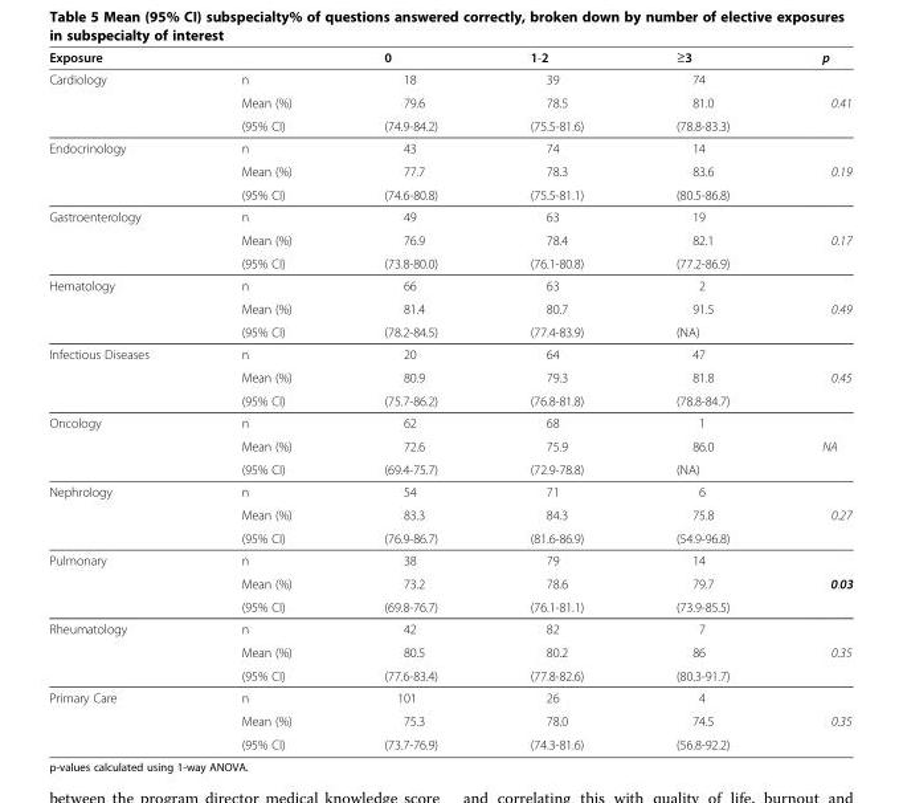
<table><thead><tr><td>Exposure</td><td></td><td>0</td><td>1-2</td><td>≥3</td><td>p</td></tr></thead><tbody><tr><td rowspan="3">Cardiology</td><td>n</td><td>18</td><td>39</td><td>74</td><td></td></tr><tr><td>Mean (%)</td><td>79.6</td><td>78.5</td><td>81.0</td><td>0.41</td></tr><tr><td>(95% CI)</td><td>(74.9-84.2)</td><td>(75.5-81.6)</td><td>(78.8-83.3)</td><td></td></tr><tr><td rowspan="3">Endocrinology</td><td>n</td><td>43</td><td>74</td><td>14</td><td></td></tr><tr><td>Mean (%)</td><td>77.7</td><td>78.3</td><td>83.6</td><td>0.19</td></tr><tr><td>(95% CI)</td><td>(74.6-80.8)</td><td>(75.5-81.1)</td><td>(80.5-86.8)</td><td></td></tr><tr><td rowspan="3">Gastroenterology</td><td>n</td><td>49</td><td>63</td><td>19</td><td></td></tr><tr><td>Mean (%)</td><td>76.9</td><td>78.4</td><td>82.1</td><td>0.17</td></tr><tr><td>(95% CI)</td><td>(73.8-80.0)</td><td>(76.1-80.8)</td><td>(77.2-86.9)</td><td></td></tr><tr><td rowspan="3">Hematology</td><td>n</td><td>66</td><td>63</td><td>2</td><td></td></tr><tr><td>Mean (%)</td><td>81.4</td><td>80.7</td><td>91.5</td><td>0.49</td></tr><tr><td>(95% CI)</td><td>(78.2-84.5)</td><td>(77.4-83.9)</td><td>(NA)</td><td></td></tr><tr><td rowspan="3">Infectious Diseases</td><td>n</td><td>20</td><td>64</td><td>47</td><td></td></tr><tr><td>Mean (%)</td><td>80.9</td><td>79.3</td><td>81.8</td><td>0.45</td></tr><tr><td>(95% CI)</td><td>(75.7-86.2)</td><td>(76.8-81.8)</td><td>(78.8-84.7)</td><td></td></tr><tr><td rowspan="3">Oncology</td><td>n</td><td>62</td><td>68</td><td>1</td><td></td></tr><tr><td>Mean (%)</td><td>72.6</td><td>75.9</td><td>86.0</td><td>NA</td></tr><tr><td>(95% CI)</td><td>(69.4-75.7)</td><td>(72.9-78.8)</td><td>(NA)</td><td></td></tr><tr><td rowspan="3">Nephrology</td><td>n</td><td>54</td><td>71</td><td>6</td><td></td></tr><tr><td>Mean (%)</td><td>83.3</td><td>84.3</td><td>75.8</td><td>0.27</td></tr><tr><td>(95% CI)</td><td>(76.9-86.7)</td><td>(81.6-86.9)</td><td>(54.9-96.8)</td><td></td></tr><tr><td rowspan="3">Pulmonary</td><td>n</td><td>38</td><td>79</td><td>14</td><td></td></tr><tr><td>Mean (%)</td><td>73.2</td><td>78.6</td><td>79.7</td><td>0.03</td></tr><tr><td>(95% CI)</td><td>(69.8-76.7)</td><td>(76.1-81.1)</td><td>(73.9-85.5)</td><td></td></tr><tr><td rowspan="3">Rheumatology</td><td>n</td><td>42</td><td>82</td><td>7</td><td></td></tr><tr><td>Mean (%)</td><td>80.5</td><td>80.2</td><td>86</td><td>0.35</td></tr><tr><td>(95% CI)</td><td>(77.6-83.4)</td><td>(77.8-82.6)</td><td>(80.3-91.7)</td><td></td></tr><tr><td rowspan="3">Primary Care</td><td>n</td><td>101</td><td>26</td><td>4</td><td></td></tr><tr><td>Mean (%)</td><td>75.3</td><td>78.0</td><td>74.5</td><td>0.35</td></tr><tr><td>(95% CI)</td><td>(73.7-76.9)</td><td>(74.3-81.6)</td><td>(56.8-92.2)</td><td></td></tr></tbody></table>